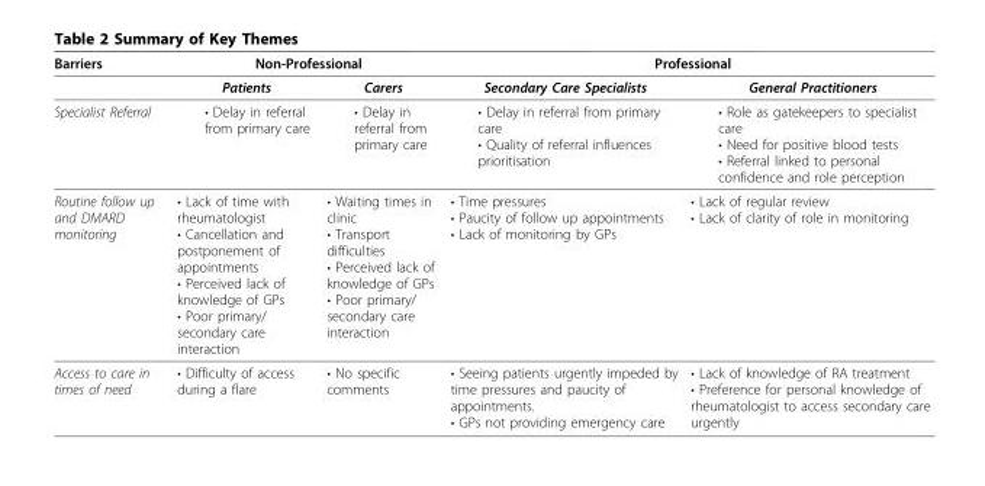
<table><thead><tr><td rowspan="2">Barriers</td><td colspan="2">Non-Professional</td><td colspan="2">Professional</td></tr><tr><td>Patients</td><td>Carers</td><td>Secondary Care Specialists</td><td>General Practitioners</td></tr></thead><tbody><tr><td>Specialist Referral</td><td>• Delay in referral from primary care</td><td>• Delay in referral from primary care</td><td>• Delay in referral from primary care • Quality of referral influences prioritisation</td><td>• Role as gatekeepers to specialist care • Need for positive blood tests • Referral linked to personal confidence and role perception</td></tr><tr><td>Routine follow up and DMARD monitoring</td><td>• Lack of time with rheumatologist • Cancellation and postponement of appointments • Perceived lack of knowledge of GPs • Poor primary/ secondary care interaction</td><td>• Waiting times in clinic • Transport difficulties • Perceived lack of knowledge of GPs • Poor primary/ secondary care interaction</td><td>• Time pressures • Paucity of follow up appointments • Lack of monitoring by GPs</td><td>• Lack of regular review • Lack of clarity of role in monitoring</td></tr><tr><td>Access to care in times of need</td><td>• Difficulty of access during a flare</td><td>• No specific comments</td><td>• Seeing patients urgently impeded by time pressures and paucity of appointments. • GPs not providing emergency care</td><td>• Lack of knowledge of RA treatment • Preference for personal knowledge of rheumatologist to access secondary care urgently</td></tr></tbody></table>